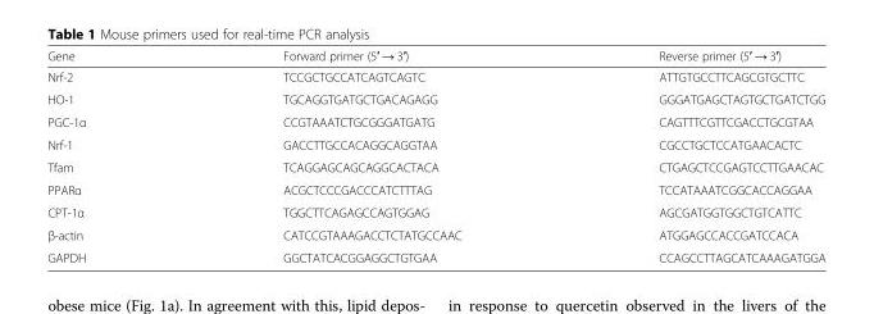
<table><thead><tr><td>Gene</td><td>Forward primer (5′ → 3′)</td><td>Reverse primer (5′ → 3′)</td></tr></thead><tbody><tr><td>Nrf-2</td><td>TCCGCTGCCATCAGTCAGTC</td><td>ATTGTGCCTTCAGCGTGCTTC</td></tr><tr><td>HO-1</td><td>TGCAGGTGATGCTGACAGAGG</td><td>GGGATGAGCTAGTGCTGATCTGG</td></tr><tr><td>PGC-1α</td><td>CCGTAAATCTGCGGGATGATG</td><td>CAGTTTCGTTCGACCTGCGTAA</td></tr><tr><td>Nrf-1</td><td>GACCTTGCCACAGGCAGGTAA</td><td>CGCCTGCTCCATGAACACTC</td></tr><tr><td>Tfam</td><td>TCAGGAGCAGCAGGCACTACA</td><td>CTGAGCTCCGAGTCCTTGAACAC</td></tr><tr><td>PPARα</td><td>ACGCTCCCGACCCATCTTTAG</td><td>TCCATAAATCGGCACCAGGAA</td></tr><tr><td>CPT-1α</td><td>TGGCTTCAGAGCCAGTGGAG</td><td>AGCGATGGTGGCTGTCATTC</td></tr><tr><td>β-actin</td><td>CATCCGTAAAGACCTCTATGCCAAC</td><td>ATGGAGCCACCGATCCACA</td></tr><tr><td>GAPDH</td><td>GGCTATCACGGAGGCTGTGAA</td><td>CCAGCCTTAGCATCAAAGATGGA</td></tr></tbody></table>